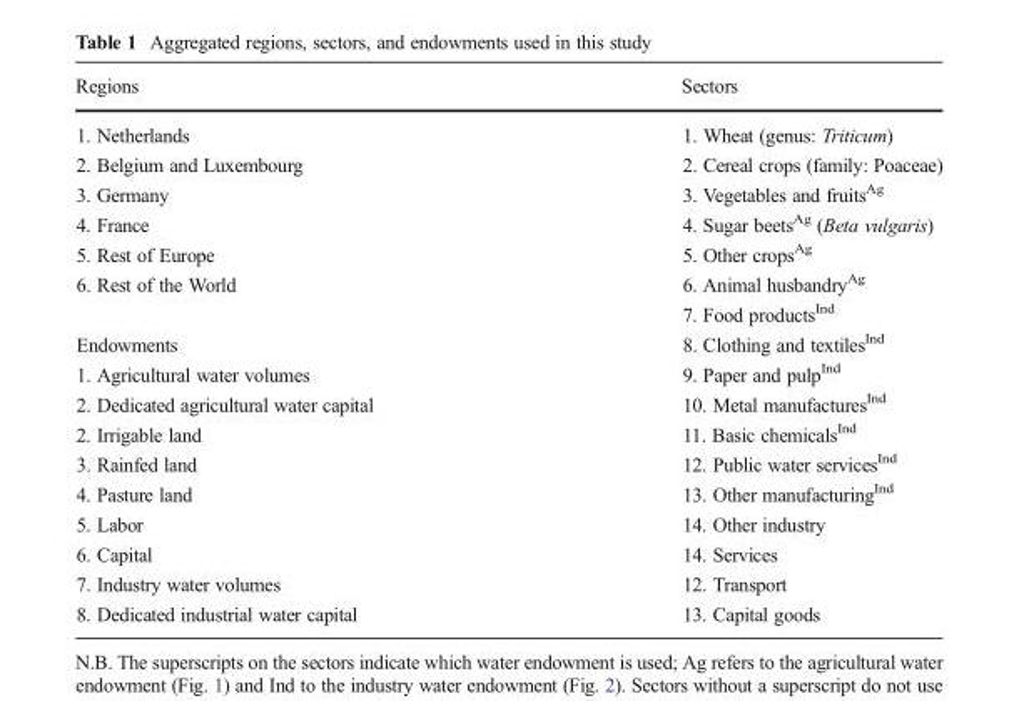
<table><thead><tr><td>Regions</td><td>Sectors</td></tr></thead><tbody><tr><td>1. Netherlands</td><td>1. Wheat (genus: Triticum)</td></tr><tr><td>2. Belgium and Luxembourg</td><td>2. Cereal crops (family: Poaceae)</td></tr><tr><td>3. Germany</td><td>3. Vegetables and fruits<sup>Ag</sup></td></tr><tr><td>4. France</td><td>4. Sugar beets<sup>Ag</sup> (Beta vulgaris)</td></tr><tr><td>5. Rest of Europe</td><td>5. Other crops<sup>Ag</sup></td></tr><tr><td rowspan="2">6. Rest of the World</td><td>6. Animal husbandry<sup>Ag</sup></td></tr><tr><td>7. Food products<sup>Ind</sup></td></tr><tr><td>Endowments</td><td>8. Clothing and textiles<sup>Ind</sup></td></tr><tr><td>1. Agricultural water volumes</td><td>9. Paper and pulp<sup>Ind</sup></td></tr><tr><td>2. Dedicated agricultural water capital</td><td>10. Metal manufactures<sup>Ind</sup></td></tr><tr><td>2. Irrigable land</td><td>11. Basic chemicals<sup>Ind</sup></td></tr><tr><td>3. Rainfed land</td><td>12. Public water services<sup>Ind</sup></td></tr><tr><td>4. Pasture land</td><td>13. Other manufacturing<sup>Ind</sup></td></tr><tr><td>5. Labor</td><td>14. Other industry</td></tr><tr><td>6. Capital</td><td>14. Services</td></tr><tr><td>7. Industry water volumes</td><td>12. Transport</td></tr><tr><td>8. Dedicated industrial water capital</td><td>13. Capital goods</td></tr></tbody></table>